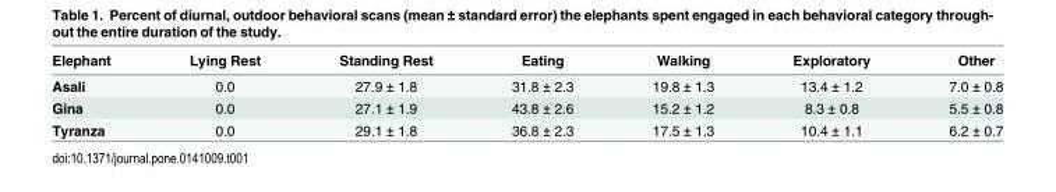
<table><thead><tr><td>Elephant</td><td>Lying Rest</td><td>Standing Rest</td><td>Eating</td><td>Walking</td><td>Exploratory</td><td>Other</td></tr></thead><tbody><tr><td>Asali</td><td>0.0</td><td>27.9 ± 1.8</td><td>31.8 ± 2.3</td><td>19.8 ± 1.3</td><td>13.4 ± 1.2</td><td>7.0 ± 0.8</td></tr><tr><td>Gina</td><td>0.0</td><td>27.1 ± 1.9</td><td>43.8 ± 2.6</td><td>15.2 ± 1.2</td><td>8.3 ± 0.8</td><td>5.5 ± 0.8</td></tr><tr><td>Tyranza</td><td>0.0</td><td>29.1 ± 1.8</td><td>36.8 ± 2.3</td><td>17.5 ± 1.3</td><td>10.4 ± 1.1</td><td>6.2 ± 0.7</td></tr></tbody></table>